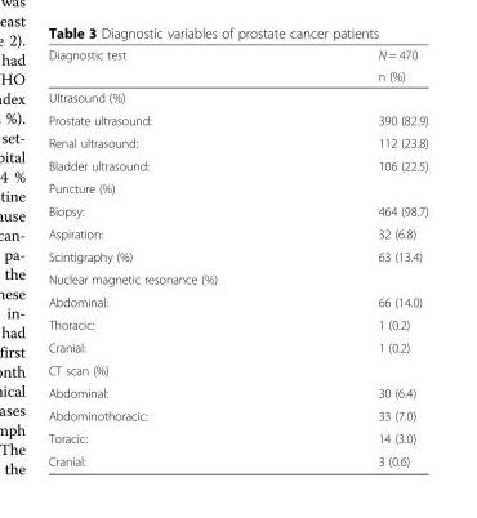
<table><thead><tr><td rowspan="2">Diagnostic test</td><td rowspan="2">N = 470 n (%)</td></tr><tr></tr></thead><tbody><tr><td colspan="2">Ultrasound (%)</td></tr><tr><td>Prostate ultrasound:</td><td>390 (82.9)</td></tr><tr><td>Renal ultrasound:</td><td>112 (23.8)</td></tr><tr><td>Bladder ultrasound:</td><td>106 (22.5)</td></tr><tr><td colspan="2">Puncture (%)</td></tr><tr><td>Biopsy:</td><td>464 (98.7)</td></tr><tr><td>Aspiration:</td><td>32 (6.8)</td></tr><tr><td>Scintigraphy (%)</td><td>63 (13.4)</td></tr><tr><td colspan="2">Nuclear magnetic resonance (%)</td></tr><tr><td>Abdominal:</td><td>66 (14.0)</td></tr><tr><td>Thoracic:</td><td>1 (0.2)</td></tr><tr><td>Cranial:</td><td>1 (0.2)</td></tr><tr><td colspan="2">CT scan (%)</td></tr><tr><td>Abdominal:</td><td>30 (6.4)</td></tr><tr><td>Abdominothoracic:</td><td>33 (7.0)</td></tr><tr><td>Toracic:</td><td>14 (3.0)</td></tr><tr><td>Cranial:</td><td>3 (0.6)</td></tr></tbody></table>